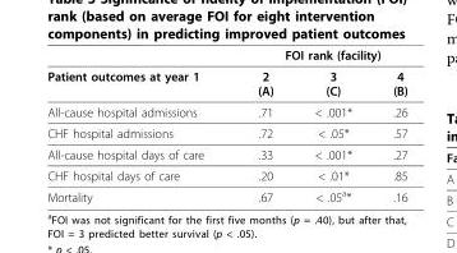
<table><thead><tr><td rowspan="2">Patient outcomes at year 1</td><td colspan="3">FOI rank (facility)</td></tr><tr><td>2 (A)</td><td>3 (C)</td><td>4 (B)</td></tr></thead><tbody><tr><td>All-cause hospital admissions</td><td>.71</td><td>&lt; .001*</td><td>.26</td></tr><tr><td>CHF hospital admissions</td><td>.72</td><td>&lt; .05*</td><td>.57</td></tr><tr><td>All-cause hospital days of care</td><td>.33</td><td>&lt; .001*</td><td>.27</td></tr><tr><td>CHF hospital days of care</td><td>.20</td><td>&lt; .01*</td><td>.85</td></tr><tr><td>Mortality</td><td>.67</td><td>&lt; .05<sup>a</sup>*</td><td>.16</td></tr></tbody></table>